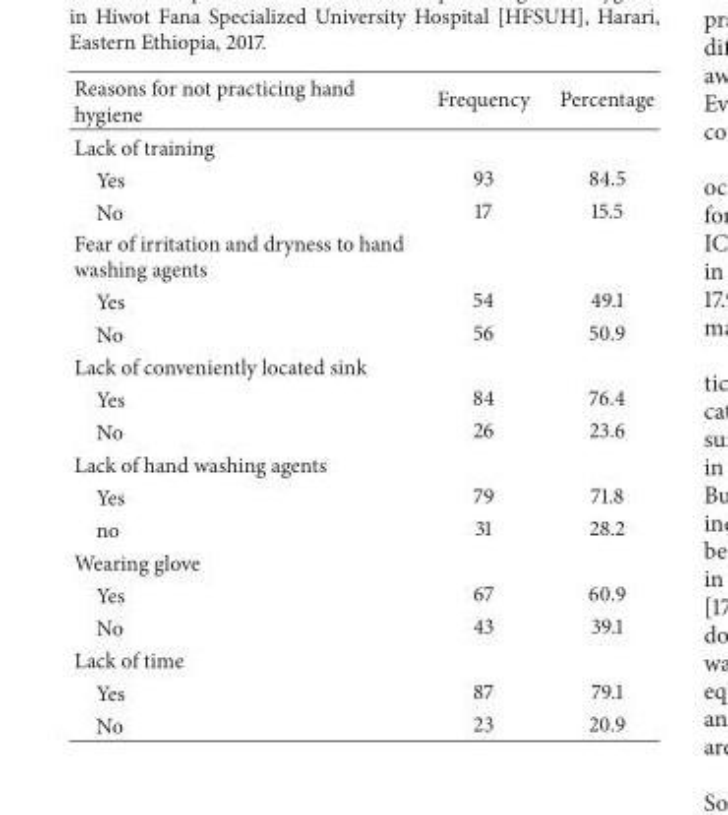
<table><thead><tr><td>Reasons for not practicing hand hygiene</td><td>Frequency</td><td>Percentage</td></tr></thead><tbody><tr><td colspan="3">Lack of training</td></tr><tr><td>Yes</td><td>93</td><td>84.5</td></tr><tr><td>No</td><td>17</td><td>15.5</td></tr><tr><td colspan="3">Fear of irritation and dryness to hand washing agents</td></tr><tr><td>Yes</td><td>54</td><td>49.1</td></tr><tr><td>No</td><td>56</td><td>50.9</td></tr><tr><td colspan="3">Lack of conveniently located sink</td></tr><tr><td>Yes</td><td>84</td><td>76.4</td></tr><tr><td>No</td><td>26</td><td>23.6</td></tr><tr><td colspan="3">Lack of hand washing agents</td></tr><tr><td>Yes</td><td>79</td><td>71.8</td></tr><tr><td>no</td><td>31</td><td>28.2</td></tr><tr><td colspan="3">Wearing glove</td></tr><tr><td>Yes</td><td>67</td><td>60.9</td></tr><tr><td>No</td><td>43</td><td>39.1</td></tr><tr><td colspan="3">Lack of time</td></tr><tr><td>Yes</td><td>87</td><td>79.1</td></tr><tr><td>No</td><td>23</td><td>20.9</td></tr></tbody></table>